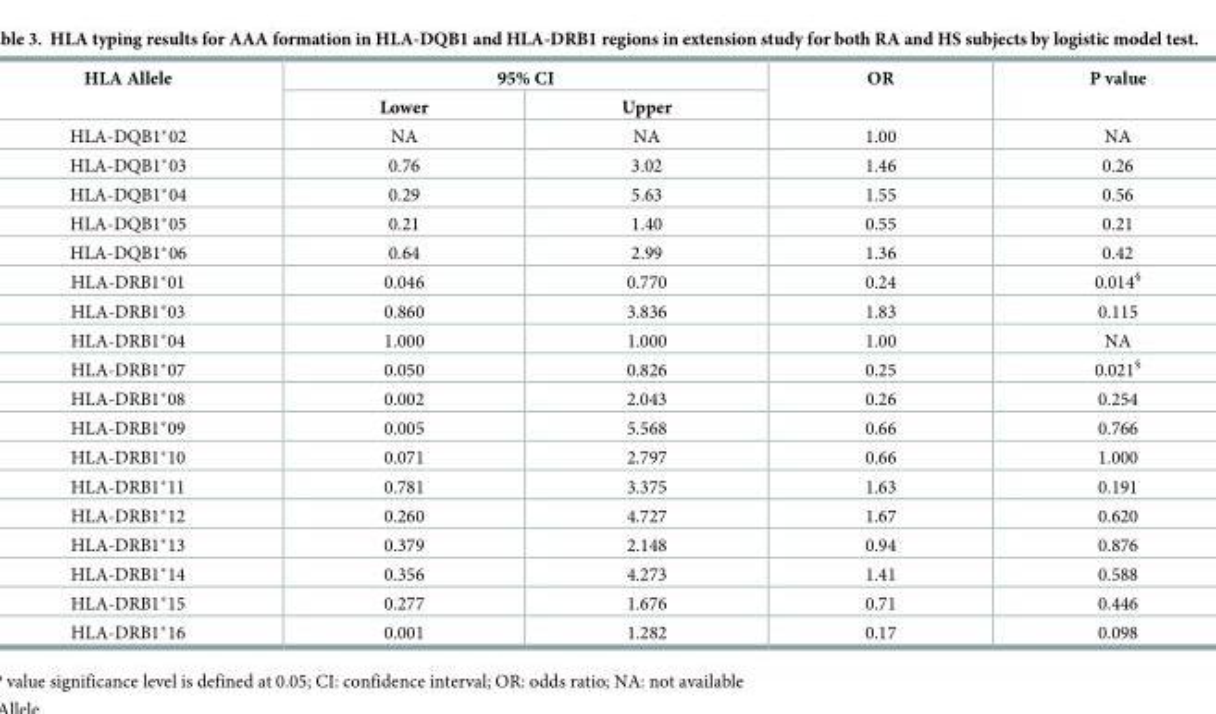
<table><thead><tr><td rowspan="2">HLA Allele</td><td colspan="2">95% CI</td><td rowspan="2">OR</td><td rowspan="2">P value</td></tr><tr><td>Lower</td><td>Upper</td></tr></thead><tbody><tr><td>HLA-DQB1*02</td><td>NA</td><td>NA</td><td>1.00</td><td>NA</td></tr><tr><td>HLA-DQB1*03</td><td>0.76</td><td>3.02</td><td>1.46</td><td>0.26</td></tr><tr><td>HLA-DQB1*04</td><td>0.29</td><td>5.63</td><td>1.55</td><td>0.56</td></tr><tr><td>HLA-DQB1*05</td><td>0.21</td><td>1.40</td><td>0.55</td><td>0.21</td></tr><tr><td>HLA-DQB1*06</td><td>0.64</td><td>2.99</td><td>1.36</td><td>0.42</td></tr><tr><td>HLA-DRB1*01</td><td>0.046</td><td>0.770</td><td>0.24</td><td>0.014<sup>§</sup></td></tr><tr><td>HLA-DRB1*03</td><td>0.860</td><td>3.836</td><td>1.83</td><td>0.115</td></tr><tr><td>HLA-DRB1*04</td><td>1.000</td><td>1.000</td><td>1.00</td><td>NA</td></tr><tr><td>HLA-DRB1*07</td><td>0.050</td><td>0.826</td><td>0.25</td><td>0.021<sup>§</sup></td></tr><tr><td>HLA-DRB1*08</td><td>0.002</td><td>2.043</td><td>0.26</td><td>0.254</td></tr><tr><td>HLA-DRB1*09</td><td>0.005</td><td>5.568</td><td>0.66</td><td>0.766</td></tr><tr><td>HLA-DRB1*10</td><td>0.071</td><td>2.797</td><td>0.66</td><td>1.000</td></tr><tr><td>HLA-DRB1*11</td><td>0.781</td><td>3.375</td><td>1.63</td><td>0.191</td></tr><tr><td>HLA-DRB1*12</td><td>0.260</td><td>4.727</td><td>1.67</td><td>0.620</td></tr><tr><td>HLA-DRB1*13</td><td>0.379</td><td>2.148</td><td>0.94</td><td>0.876</td></tr><tr><td>HLA-DRB1*14</td><td>0.356</td><td>4.273</td><td>1.41</td><td>0.588</td></tr><tr><td>HLA-DRB1*15</td><td>0.277</td><td>1.676</td><td>0.71</td><td>0.446</td></tr><tr><td>HLA-DRB1*16</td><td>0.001</td><td>1.282</td><td>0.17</td><td>0.098</td></tr></tbody></table>